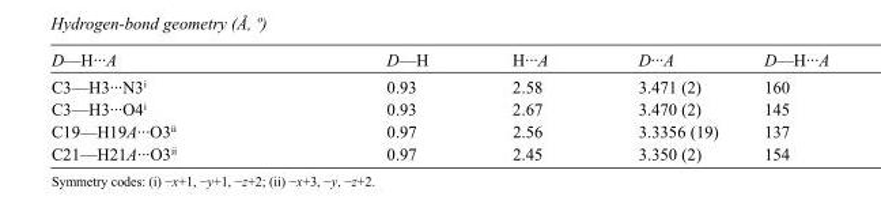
<table><tbody><tr><td>D—H···A</td><td>D—H</td><td>H···A</td><td>D···A</td><td>D—H···A</td></tr><tr><td>C3—H3···N3<sup>i</sup></td><td>0.93</td><td>2.58</td><td>3.471 (2)</td><td>160</td></tr><tr><td>C3—H3···O4<sup>i</sup></td><td>0.93</td><td>2.67</td><td>3.470 (2)</td><td>145</td></tr><tr><td>C19—H19A···O3<sup>ii</sup></td><td>0.97</td><td>2.56</td><td>3.3356 (19)</td><td>137</td></tr><tr><td>C21—H21A···O3<sup>ii</sup></td><td>0.97</td><td>2.45</td><td>3.350 (2)</td><td>154</td></tr></tbody></table>